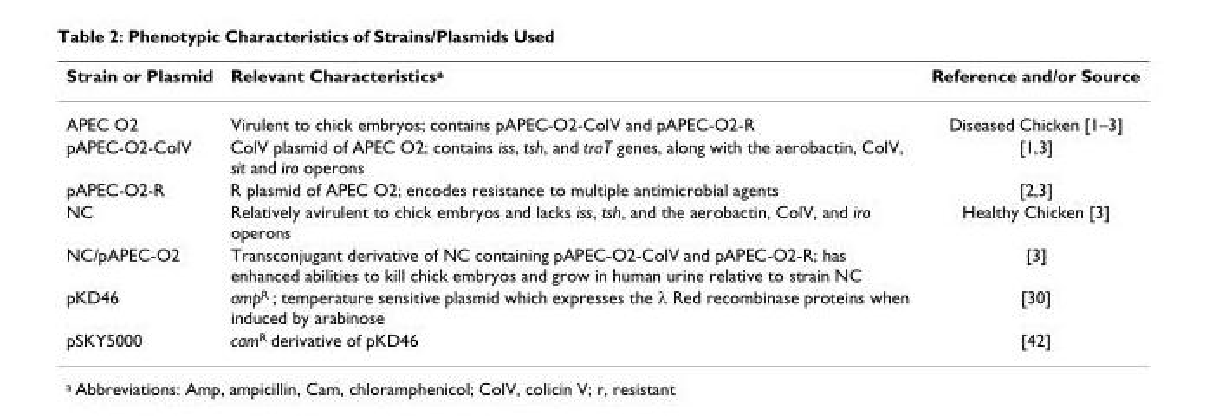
<table><thead><tr><td>Strain or Plasmid</td><td>Relevant Characteristics<sup>a</sup></td><td>Reference and/or Source</td></tr></thead><tbody><tr><td>APEC O2</td><td>Virulent to chick embryos; contains pAPEC-O2-ColV and pAPEC-O2-R</td><td>Diseased Chicken [1–3]</td></tr><tr><td>pAPEC-O2-ColV</td><td>ColV plasmid of APEC O2; contains iss, tsh, and traT genes, along with the aerobactin, ColV, sit and iro operons</td><td>[1,3]</td></tr><tr><td>pAPEC-O2-R</td><td>R plasmid of APEC O2; encodes resistance to multiple antimicrobial agents</td><td>[2,3]</td></tr><tr><td>NC</td><td>Relatively avirulent to chick embryos and lacks iss, tsh, and the aerobactin, ColV, and iro operons</td><td>Healthy Chicken [3]</td></tr><tr><td>NC/pAPEC-O2</td><td>Transconjugant derivative of NC containing pAPEC-O2-ColV and pAPEC-O2-R; has enhanced abilities to kill chick embryos and grow in human urine relative to strain NC</td><td>[3]</td></tr><tr><td>pKD46</td><td>amp<sup>R</sup> ; temperature sensitive plasmid which expresses the λ Red recombinase proteins when induced by arabinose</td><td>[30]</td></tr><tr><td>pSKY5000</td><td>cam<sup>R</sup> derivative of pKD46</td><td>[42]</td></tr></tbody></table>